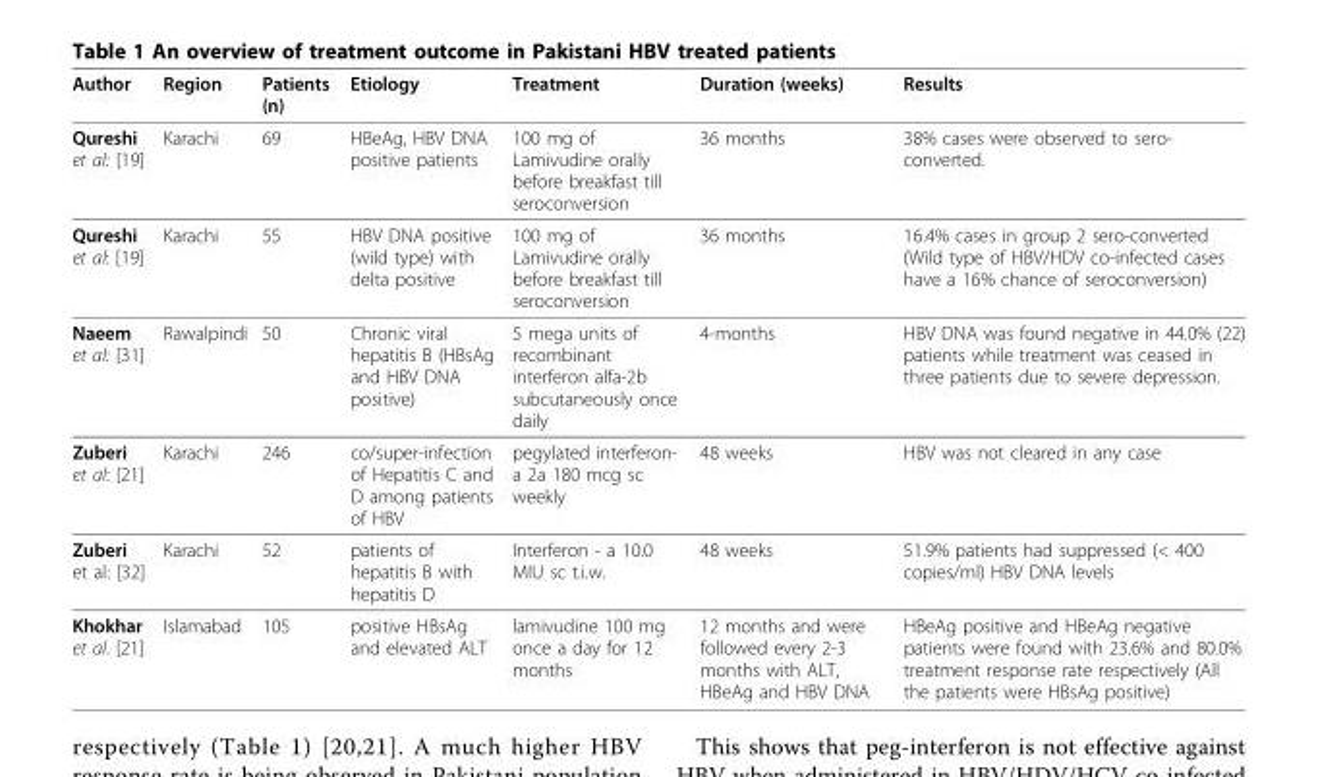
<table><thead><tr><td>Author</td><td>Region</td><td>Patients (n)</td><td>Etiology</td><td>Treatment</td><td>Duration (weeks)</td><td>Results</td></tr></thead><tbody><tr><td>Qureshi et al: [19]</td><td>Karachi</td><td>69</td><td>HBeAg, HBV DNA positive patients</td><td>100 mg of Lamivudine orally before breakfast till seroconversion</td><td>36 months</td><td>38% cases were observed to sero- converted.</td></tr><tr><td>Qureshi et al: [19]</td><td>Karachi</td><td>55</td><td>HBV DNA positive (wild type) with delta positive</td><td>100 mg of Lamivudine orally before breakfast till seroconversion</td><td>36 months</td><td>16.4% cases in group 2 sero-converted (Wild type of HBV/HDV co-infected cases have a 16% chance of seroconversion)</td></tr><tr><td>Naeem et al: [31]</td><td>Rawalpindi</td><td>50</td><td>Chronic viral hepatitis B (HBsAg and HBV DNA positive)</td><td>5 mega units of recombinant interferon alfa-2b subcutaneously once daily</td><td>4-months</td><td>HBV DNA was found negative in 44.0% (22) patients while treatment was ceased in three patients due to severe depression.</td></tr><tr><td>Zuberi et al: [21]</td><td>Karachi</td><td>246</td><td>co/super-infection of Hepatitis C and D among patients of HBV</td><td>pegylated interferon- a 2a 180 mcg sc weekly</td><td>48 weeks</td><td>HBV was not cleared in any case</td></tr><tr><td>Zuberi et al: [32]</td><td>Karachi</td><td>52</td><td>patients of hepatitis B with hepatitis D</td><td>Interferon - a 10.0 MIU sc t.i.w.</td><td>48 weeks</td><td>51.9% patients had suppressed (&lt; 400 copies/ml) HBV DNA levels</td></tr><tr><td>Khokhar et al. [21]</td><td>Islamabad</td><td>105</td><td>positive HBsAg and elevated ALT</td><td>lamivudine 100 mg once a day for 12 months</td><td>12 months and were followed every 2-3 months with ALT, HBeAg and HBV DNA</td><td>HBeAg positive and HBeAg negative patients were found with 23.6% and 80.0% treatment response rate respectively (All the patients were HBsAg positive)</td></tr></tbody></table>